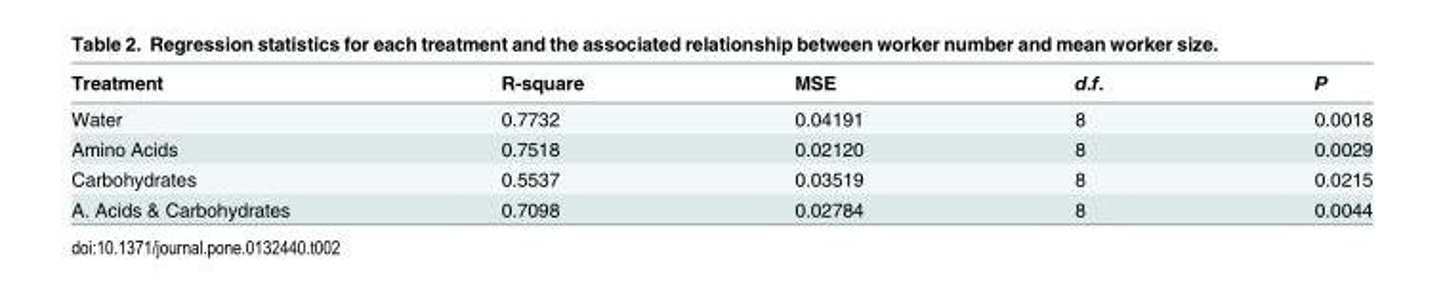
<table><thead><tr><td>Treatment</td><td>R-square</td><td>MSE</td><td>d.f.</td><td>P</td></tr></thead><tbody><tr><td>Water</td><td>0.7732</td><td>0.04191</td><td>8</td><td>0.0018</td></tr><tr><td>Amino Acids</td><td>0.7518</td><td>0.02120</td><td>8</td><td>0.0029</td></tr><tr><td>Carbohydrates</td><td>0.5537</td><td>0.03519</td><td>8</td><td>0.0215</td></tr><tr><td>A. Acids &amp; Carbohydrates</td><td>0.7098</td><td>0.02784</td><td>8</td><td>0.0044</td></tr></tbody></table>